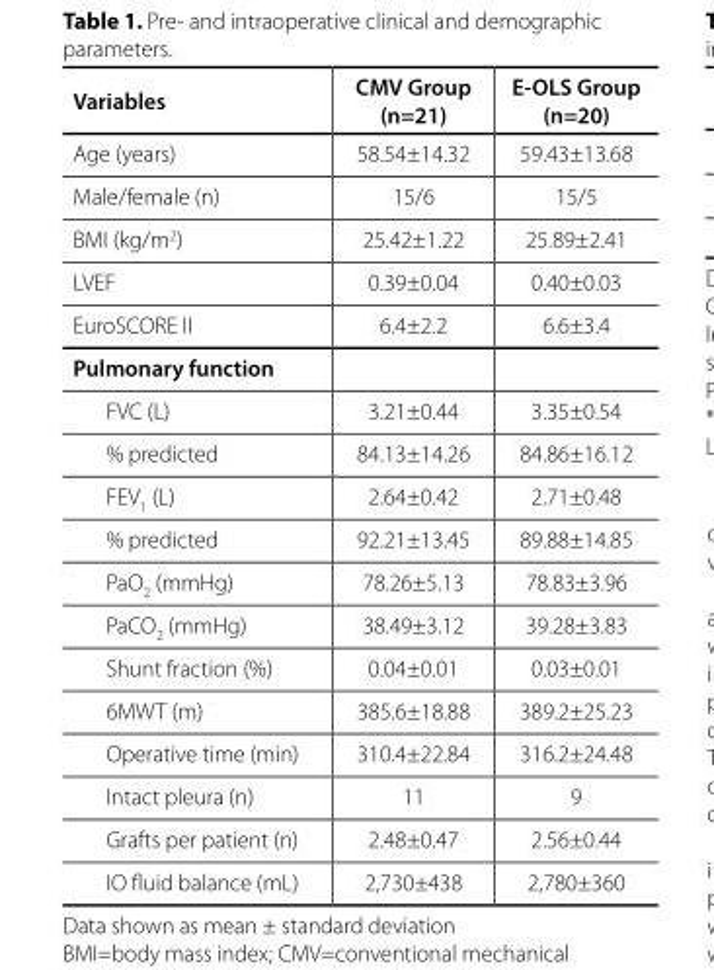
<table><thead><tr><td>Variables</td><td>CMV Group (n=21)</td><td>E-OLS Group (n=20)</td></tr></thead><tbody><tr><td>Age (years)</td><td>58.54±14.32</td><td>59.43±13.68</td></tr><tr><td>Male/female (n)</td><td>15/6</td><td>15/5</td></tr><tr><td>BMI (kg/m<sup>2</sup>)</td><td>25.42±1.22</td><td>25.89±2.41</td></tr><tr><td>LVEF</td><td>0.39±0.04</td><td>0.40±0.03</td></tr><tr><td>EuroSCORE II</td><td>6.4±2.2</td><td>6.6±3.4</td></tr><tr><td colspan="3">Pulmonary function</td></tr><tr><td>FVC (L)</td><td>3.21±0.44</td><td>3.35±0.54</td></tr><tr><td>% predicted</td><td>84.13±14.26</td><td>84.86±16.12</td></tr><tr><td>FEV<sub>1</sub> (L)</td><td>2.64±0.42</td><td>2.71±0.48</td></tr><tr><td>% predicted</td><td>92.21±13.45</td><td>89.88±14.85</td></tr><tr><td>PaO<sub>2</sub> (mmHg)</td><td>78.26±5.13</td><td>78.83±3.96</td></tr><tr><td>PaCO<sub>2</sub> (mmHg)</td><td>38.49±3.12</td><td>39.28±3.83</td></tr><tr><td>Shunt fraction (%)</td><td>0.04±0.01</td><td>0.03±0.01</td></tr><tr><td>6MWT (m)</td><td>385.6±18.88</td><td>389.2±25.23</td></tr><tr><td>Operative time (min)</td><td>310.4±22.84</td><td>316.2±24.48</td></tr><tr><td>Intact pleura (n)</td><td>11</td><td>9</td></tr><tr><td>Grafts per patient (n)</td><td>2.48±0.47</td><td>2.56±0.44</td></tr><tr><td>IO fluid balance (mL)</td><td>2,730±438</td><td>2,780±360</td></tr></tbody></table>